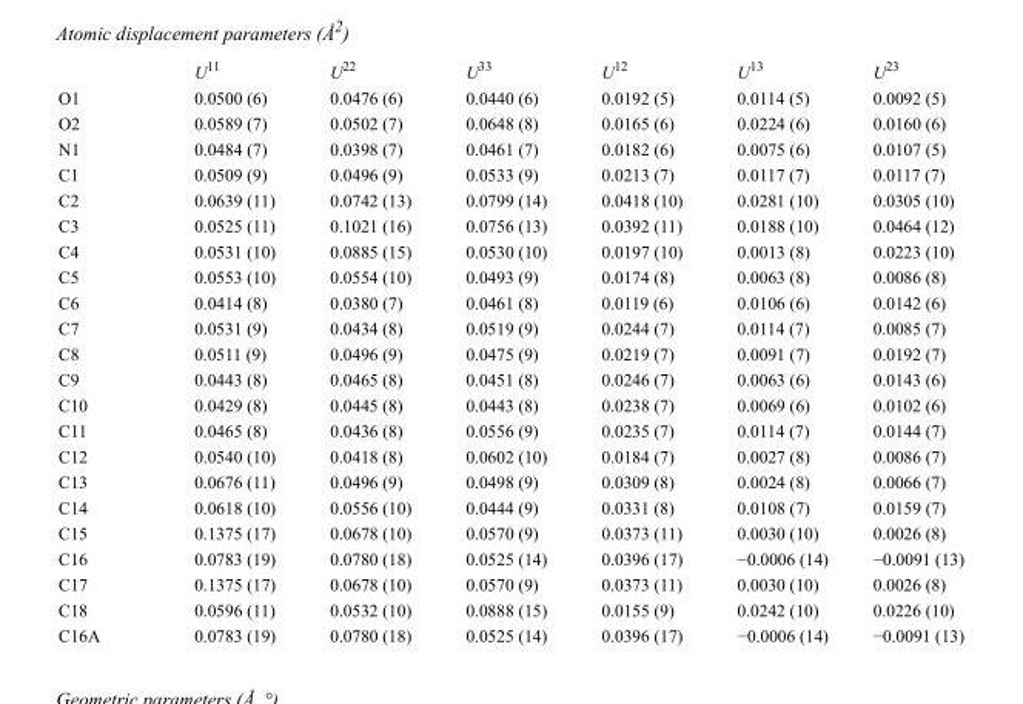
<table><thead><tr><td></td><td>U<sup>11</sup></td><td>U<sup>22</sup></td><td>U<sup>33</sup></td><td>U<sup>12</sup></td><td>U<sup>13</sup></td><td>U<sup>23</sup></td></tr></thead><tbody><tr><td>O1</td><td>0.0500 (6)</td><td>0.0476 (6)</td><td>0.0440 (6)</td><td>0.0192 (5)</td><td>0.0114 (5)</td><td>0.0092 (5)</td></tr><tr><td>O2</td><td>0.0589 (7)</td><td>0.0502 (7)</td><td>0.0648 (8)</td><td>0.0165 (6)</td><td>0.0224 (6)</td><td>0.0160 (6)</td></tr><tr><td>N1</td><td>0.0484 (7)</td><td>0.0398 (7)</td><td>0.0461 (7)</td><td>0.0182 (6)</td><td>0.0075 (6)</td><td>0.0107 (5)</td></tr><tr><td>C1</td><td>0.0509 (9)</td><td>0.0496 (9)</td><td>0.0533 (9)</td><td>0.0213 (7)</td><td>0.0117 (7)</td><td>0.0117 (7)</td></tr><tr><td>C2</td><td>0.0639 (11)</td><td>0.0742 (13)</td><td>0.0799 (14)</td><td>0.0418 (10)</td><td>0.0281 (10)</td><td>0.0305 (10)</td></tr><tr><td>C3</td><td>0.0525 (11)</td><td>0.1021 (16)</td><td>0.0756 (13)</td><td>0.0392 (11)</td><td>0.0188 (10)</td><td>0.0464 (12)</td></tr><tr><td>C4</td><td>0.0531 (10)</td><td>0.0885 (15)</td><td>0.0530 (10)</td><td>0.0197 (10)</td><td>0.0013 (8)</td><td>0.0223 (10)</td></tr><tr><td>C5</td><td>0.0553 (10)</td><td>0.0554 (10)</td><td>0.0493 (9)</td><td>0.0174 (8)</td><td>0.0063 (8)</td><td>0.0086 (8)</td></tr><tr><td>C6</td><td>0.0414 (8)</td><td>0.0380 (7)</td><td>0.0461 (8)</td><td>0.0119 (6)</td><td>0.0106 (6)</td><td>0.0142 (6)</td></tr><tr><td>C7</td><td>0.0531 (9)</td><td>0.0434 (8)</td><td>0.0519 (9)</td><td>0.0244 (7)</td><td>0.0114 (7)</td><td>0.0085 (7)</td></tr><tr><td>C8</td><td>0.0511 (9)</td><td>0.0496 (9)</td><td>0.0475 (9)</td><td>0.0219 (7)</td><td>0.0091 (7)</td><td>0.0192 (7)</td></tr><tr><td>C9</td><td>0.0443 (8)</td><td>0.0465 (8)</td><td>0.0451 (8)</td><td>0.0246 (7)</td><td>0.0063 (6)</td><td>0.0143 (6)</td></tr><tr><td>C10</td><td>0.0429 (8)</td><td>0.0445 (8)</td><td>0.0443 (8)</td><td>0.0238 (7)</td><td>0.0069 (6)</td><td>0.0102 (6)</td></tr><tr><td>C11</td><td>0.0465 (8)</td><td>0.0436 (8)</td><td>0.0556 (9)</td><td>0.0235 (7)</td><td>0.0114 (7)</td><td>0.0144 (7)</td></tr><tr><td>C12</td><td>0.0540 (10)</td><td>0.0418 (8)</td><td>0.0602 (10)</td><td>0.0184 (7)</td><td>0.0027 (8)</td><td>0.0086 (7)</td></tr><tr><td>C13</td><td>0.0676 (11)</td><td>0.0496 (9)</td><td>0.0498 (9)</td><td>0.0309 (8)</td><td>0.0024 (8)</td><td>0.0066 (7)</td></tr><tr><td>C14</td><td>0.0618 (10)</td><td>0.0556 (10)</td><td>0.0444 (9)</td><td>0.0331 (8)</td><td>0.0108 (7)</td><td>0.0159 (7)</td></tr><tr><td>C15</td><td>0.1375 (17)</td><td>0.0678 (10)</td><td>0.0570 (9)</td><td>0.0373 (11)</td><td>0.0030 (10)</td><td>0.0026 (8)</td></tr><tr><td>C16</td><td>0.0783 (19)</td><td>0.0780 (18)</td><td>0.0525 (14)</td><td>0.0396 (17)</td><td>−0.0006 (14)</td><td>−0.0091 (13)</td></tr><tr><td>C17</td><td>0.1375 (17)</td><td>0.0678 (10)</td><td>0.0570 (9)</td><td>0.0373 (11)</td><td>0.0030 (10)</td><td>0.0026 (8)</td></tr><tr><td>C18</td><td>0.0596 (11)</td><td>0.0532 (10)</td><td>0.0888 (15)</td><td>0.0155 (9)</td><td>0.0242 (10)</td><td>0.0226 (10)</td></tr><tr><td>C16A</td><td>0.0783 (19)</td><td>0.0780 (18)</td><td>0.0525 (14)</td><td>0.0396 (17)</td><td>−0.0006 (14)</td><td>−0.0091 (13)</td></tr></tbody></table>